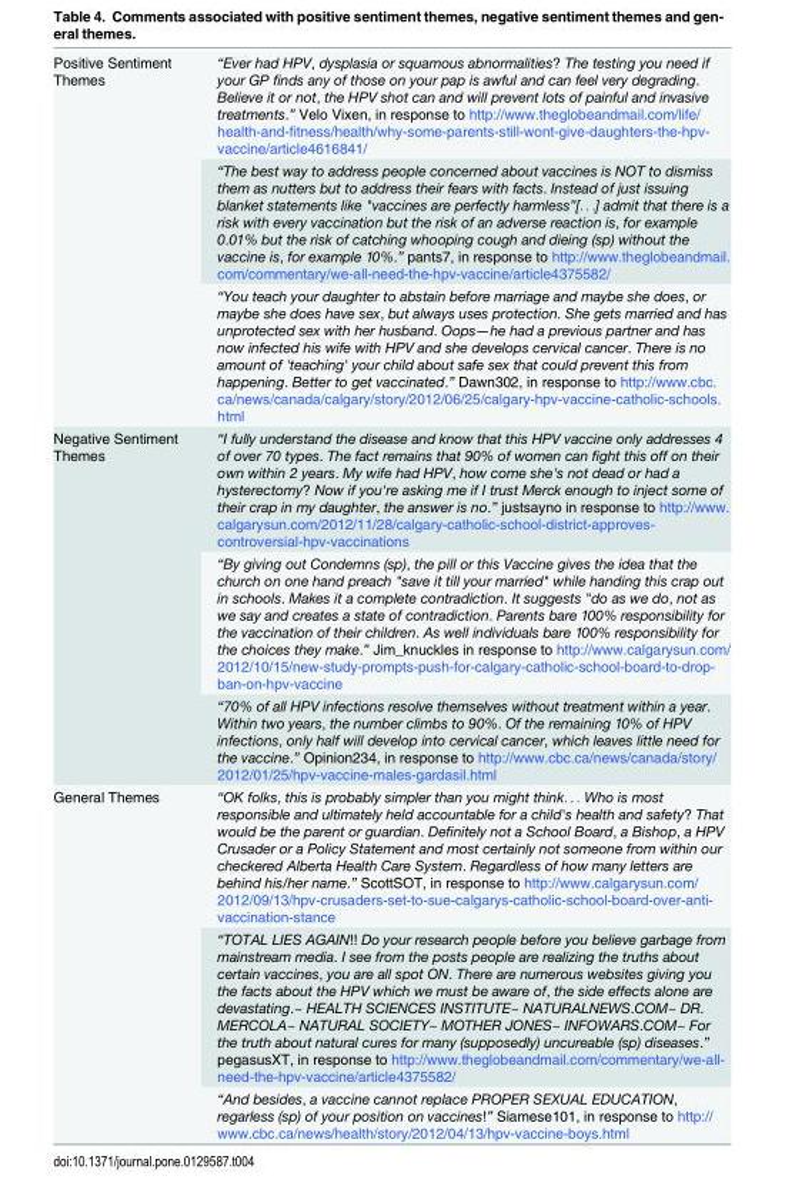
<table><tbody><tr><td rowspan="3">Positive Sentiment Themes</td><td>“Ever had HPV, dysplasia or squamous abnormalities? The testing you need if your GP finds any of those on your pap is awful and can feel very degrading. Believe it or not, the HPV shot can and will prevent lots of painful and invasive treatments.” Velo Vixen, in response to http://www.theglobeandmail.com/life/ health-and-fitness/health/why-some-parents-still-wont-give-daughters-the-hpv- vaccine/article4616841/</td></tr><tr><td>“The best way to address people concerned about vaccines is NOT to dismiss them as nutters but to address their fears with facts. Instead of just issuing blanket statements like &quot;vaccines are perfectly harmless”[. . .] admit that there is a risk with every vaccination but the risk of an adverse reaction is, for example 0.01% but the risk of catching whooping cough and dieing (sp) without the vaccine is, for example 10%.” pants7, in response to http://www.theglobeandmail. com/commentary/we-all-need-the-hpv-vaccine/article4375582/</td></tr><tr><td>“You teach your daughter to abstain before marriage and maybe she does, or maybe she does have sex, but always uses protection. She gets married and has unprotected sex with her husband. Oops—he had a previous partner and has now infected his wife with HPV and she develops cervical cancer. There is no amount of &#x27;teaching&#x27; your child about safe sex that could prevent this from happening. Better to get vaccinated.” Dawn302, in response to http://www.cbc. ca/news/canada/calgary/story/2012/06/25/calgary-hpv-vaccine-catholic-schools. html</td></tr><tr><td rowspan="3">Negative Sentiment Themes</td><td>“I fully understand the disease and know that this HPV vaccine only addresses 4 of over 70 types. The fact remains that 90% of women can fight this off on their own within 2 years. My wife had HPV, how come she&#x27;s not dead or had a hysterectomy? Now if you&#x27;re asking me if I trust Merck enough to inject some of their crap in my daughter, the answer is no.” justsayno in response to http://www. calgarysun.com/2012/11/28/calgary-catholic-school-district-approves- controversial-hpv-vaccinations</td></tr><tr><td>“By giving out Condemns (sp), the pill or this Vaccine gives the idea that the church on one hand preach &quot;save it till your married&quot; while handing this crap out in schools. Makes it a complete contradiction. It suggests &quot;do as we do, not as we say and creates a state of contradiction. Parents bare 100% responsibility for the vaccination of their children. As well individuals bare 100% responsibility for the choices they make.” Jim_knuckles in response to http://www.calgarysun.com/ 2012/10/15/new-study-prompts-push-for-calgary-catholic-school-board-to-drop- ban-on-hpv-vaccine</td></tr><tr><td>“70% of all HPV infections resolve themselves without treatment within a year. Within two years, the number climbs to 90%. Of the remaining 10% of HPV infections, only half will develop into cervical cancer, which leaves little need for the vaccine.” Opinion234, in response to http://www.cbc.ca/news/canada/story/ 2012/01/25/hpv-vaccine-males-gardasil.html</td></tr><tr><td rowspan="3">General Themes</td><td>“OK folks, this is probably simpler than you might think. . . Who is most responsible and ultimately held accountable for a child&#x27;s health and safety? That would be the parent or guardian. Definitely not a School Board, a Bishop, a HPV Crusader or a Policy Statement and most certainly not someone from within our checkered Alberta Health Care System. Regardless of how many letters are behind his/her name.” ScottSOT, in response to http://www.calgarysun.com/ 2012/09/13/hpv-crusaders-set-to-sue-calgarys-catholic-school-board-over-anti- vaccination-stance</td></tr><tr><td>“TOTAL LIES AGAIN!! Do your research people before you believe garbage from mainstream media. I see from the posts people are realizing the truths about certain vaccines, you are all spot ON. There are numerous websites giving you the facts about the HPV which we must be aware of, the side effects alone are devastating.~ HEALTH SCIENCES INSTITUTE~ NATURALNEWS.COM~ DR. MERCOLA~ NATURAL SOCIETY~ MOTHER JONES~ INFOWARS.COM~ For the truth about natural cures for many (supposedly) uncureable (sp) diseases.” pegasusXT, in response to http://www.theglobeandmail.com/commentary/we-all- need-the-hpv-vaccine/article4375582/</td></tr><tr><td>“And besides, a vaccine cannot replace PROPER SEXUAL EDUCATION, regarless (sp) of your position on vaccines!” Siamese101, in response to http:// www.cbc.ca/news/health/story/2012/04/13/hpv-vaccine-boys.html</td></tr></tbody></table>